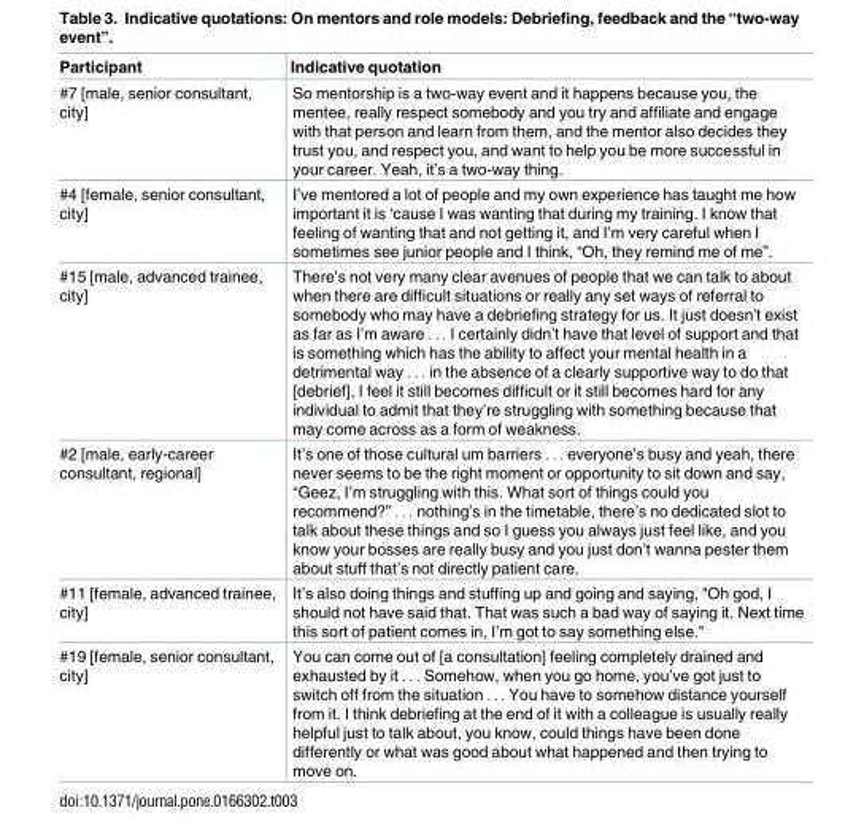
<table><thead><tr><td>Participant</td><td>Indicative quotation</td></tr></thead><tbody><tr><td>#7 [male, senior consultant, city]</td><td>So mentorship is a two-way event and it happens because you, the mentee, really respect somebody and you try and affiliate and engage with that person and learn from them, and the mentor also decides they trust you, and respect you, and want to help you be more successful in your career. Yeah, it’s a two-way thing.</td></tr><tr><td>#4 [female, senior consultant, city]</td><td>I’ve mentored a lot of people and my own experience has taught me how important it is ‘cause I was wanting that during my training. I know that feeling of wanting that and not getting it, and I’m very careful when I sometimes see junior people and I think, “Oh, they remind me of me”.</td></tr><tr><td>#15 [male, advanced trainee, city]</td><td>There’s not very many clear avenues of people that we can talk to about when there are difficult situations or really any set ways of referral to somebody who may have a debriefing strategy for us. It just doesn’t exist as far as I’m aware . . . I certainly didn’t have that level of support and that is something which has the ability to affect your mental health in a detrimental way . . . in the absence of a clearly supportive way to do that [debrief], I feel it still becomes difficult or it still becomes hard for any individual to admit that they’re struggling with something because that may come across as a form of weakness.</td></tr><tr><td>#2 [male, early-career consultant, regional]</td><td>It’s one of those cultural um barriers . . . everyone’s busy and yeah, there never seems to be the right moment or opportunity to sit down and say, “Geez, I’m struggling with this. What sort of things could you recommend?” . . . nothing’s in the timetable, there’s no dedicated slot to talk about these things and so I guess you always just feel like, and you know your bosses are really busy and you just don’t wanna pester them about stuff that’s not directly patient care.</td></tr><tr><td>#11 [female, advanced trainee, city]</td><td>It’s also doing things and stuffing up and going and saying, &quot;Oh god, I should not have said that. That was such a bad way of saying it. Next time this sort of patient comes in, I’m got to say something else.&quot;</td></tr><tr><td>#19 [female, senior consultant, city]</td><td>You can come out of [a consultation] feeling completely drained and exhausted by it . . . Somehow, when you go home, you’ve got just to switch off from the situation . . . You have to somehow distance yourself from it. I think debriefing at the end of it with a colleague is usually really helpful just to talk about, you know, could things have been done differently or what was good about what happened and then trying to move on.</td></tr></tbody></table>